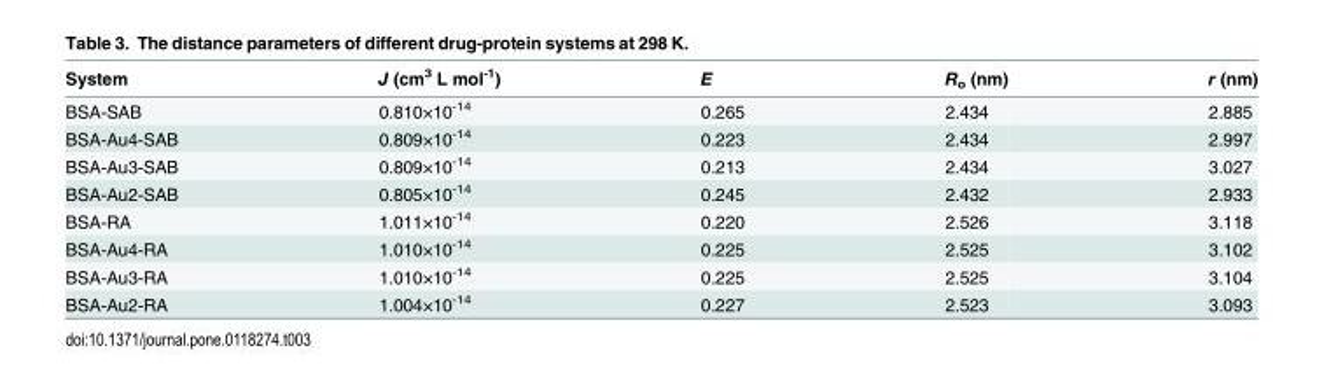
<table><thead><tr><td>System</td><td>J (cm<sup>3</sup> L mol<sup>-1</sup>)</td><td>E</td><td>R<sub>o</sub> (nm)</td><td>r (nm)</td></tr></thead><tbody><tr><td>BSA-SAB</td><td>0.810×10<sup>-14</sup></td><td>0.265</td><td>2.434</td><td>2.885</td></tr><tr><td>BSA-Au4-SAB</td><td>0.809×10<sup>-14</sup></td><td>0.223</td><td>2.434</td><td>2.997</td></tr><tr><td>BSA-Au3-SAB</td><td>0.809×10<sup>-14</sup></td><td>0.213</td><td>2.434</td><td>3.027</td></tr><tr><td>BSA-Au2-SAB</td><td>0.805×10<sup>-14</sup></td><td>0.245</td><td>2.432</td><td>2.933</td></tr><tr><td>BSA-RA</td><td>1.011×10<sup>-14</sup></td><td>0.220</td><td>2.526</td><td>3.118</td></tr><tr><td>BSA-Au4-RA</td><td>1.010×10<sup>-14</sup></td><td>0.225</td><td>2.525</td><td>3.102</td></tr><tr><td>BSA-Au3-RA</td><td>1.010×10<sup>-14</sup></td><td>0.225</td><td>2.525</td><td>3.104</td></tr><tr><td>BSA-Au2-RA</td><td>1.004×10<sup>-14</sup></td><td>0.227</td><td>2.523</td><td>3.093</td></tr></tbody></table>